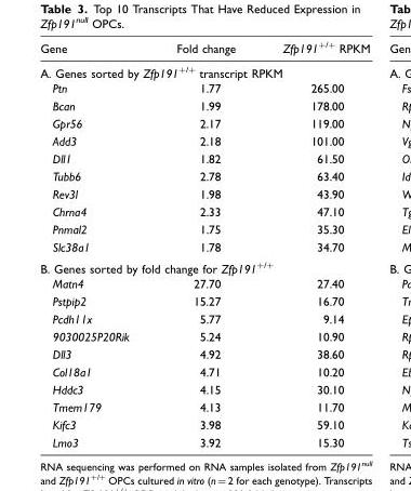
<table><thead><tr><td>Gene</td><td>Fold change</td><td>Zfp191<sup>+/+</sup> RPKM</td></tr></thead><tbody><tr><td colspan="3">A. Genes sorted by Zfp191<sup>+/+</sup> transcript RPKM</td></tr><tr><td>Ptn</td><td>1.77</td><td>265.00</td></tr><tr><td>Bcan</td><td>1.99</td><td>178.00</td></tr><tr><td>Gpr56</td><td>2.17</td><td>119.00</td></tr><tr><td>Add3</td><td>2.18</td><td>101.00</td></tr><tr><td>Dll1</td><td>1.82</td><td>61.50</td></tr><tr><td>Tubb6</td><td>2.78</td><td>63.40</td></tr><tr><td>Rev3l</td><td>1.98</td><td>43.90</td></tr><tr><td>Chrna4</td><td>2.33</td><td>47.10</td></tr><tr><td>Pnmal2</td><td>1.75</td><td>35.30</td></tr><tr><td>Slc38a1</td><td>1.78</td><td>34.70</td></tr><tr><td colspan="3">B. Genes sorted by fold change for Zfp191<sup>+/+</sup></td></tr><tr><td>Matn4</td><td>27.70</td><td>27.40</td></tr><tr><td>Pstpip2</td><td>15.27</td><td>16.70</td></tr><tr><td>Pcdh11x</td><td>5.77</td><td>9.14</td></tr><tr><td>9030025P20Rik</td><td>5.24</td><td>10.90</td></tr><tr><td>Dll3</td><td>4.92</td><td>38.60</td></tr><tr><td>Col18a1</td><td>4.71</td><td>10.20</td></tr><tr><td>Hddc3</td><td>4.15</td><td>30.10</td></tr><tr><td>Tmem179</td><td>4.13</td><td>11.70</td></tr><tr><td>Kifc3</td><td>3.98</td><td>59.10</td></tr><tr><td>Lmo3</td><td>3.92</td><td>15.30</td></tr></tbody></table>